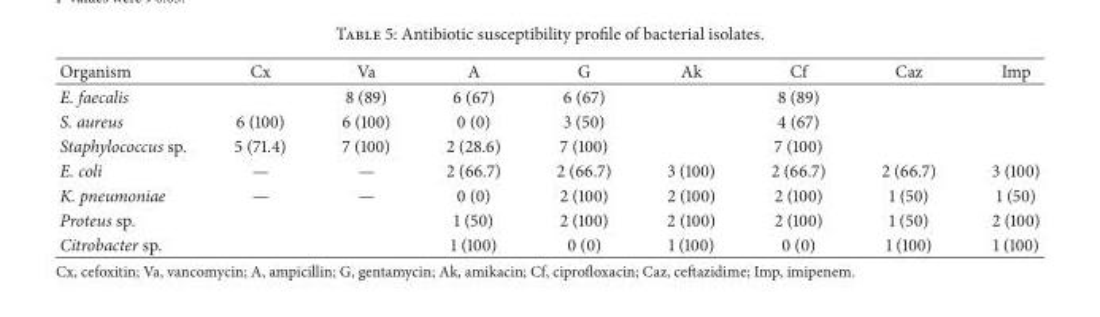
<table><thead><tr><td>Organism</td><td>Cx</td><td>Va</td><td>A</td><td>G</td><td>Ak</td><td>Cf</td><td>Caz</td><td>Imp</td></tr></thead><tbody><tr><td>E. faecalis</td><td></td><td>8 (89)</td><td>6 (67)</td><td>6 (67)</td><td></td><td>8 (89)</td><td></td><td></td></tr><tr><td>S. aureus</td><td>6 (100)</td><td>6 (100)</td><td>0 (0)</td><td>3 (50)</td><td></td><td>4 (67)</td><td></td><td></td></tr><tr><td>Staphylococcus sp.</td><td>5 (71.4)</td><td>7 (100)</td><td>2 (28.6)</td><td>7 (100)</td><td></td><td>7 (100)</td><td></td><td></td></tr><tr><td>E. coli</td><td>—</td><td>—</td><td>2 (66.7)</td><td>2 (66.7)</td><td>3 (100)</td><td>2 (66.7)</td><td>2 (66.7)</td><td>3 (100)</td></tr><tr><td>K. pneumoniae</td><td>—</td><td>—</td><td>0 (0)</td><td>2 (100)</td><td>2 (100)</td><td>2 (100)</td><td>1 (50)</td><td>1 (50)</td></tr><tr><td>Proteus sp.</td><td></td><td></td><td>1 (50)</td><td>2 (100)</td><td>2 (100)</td><td>2 (100)</td><td>1 (50)</td><td>2 (100)</td></tr><tr><td>Citrobacter sp.</td><td></td><td></td><td>1 (100)</td><td>0 (0)</td><td>1 (100)</td><td>0 (0)</td><td>1 (100)</td><td>1 (100)</td></tr></tbody></table>